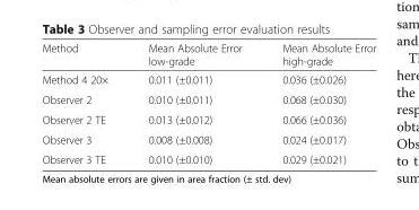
<table><thead><tr><td>Method</td><td>Mean Absolute Error low-grade</td><td>Mean Absolute Error high-grade</td></tr></thead><tbody><tr><td>Method 4 20×</td><td>0.011 (±0.011)</td><td>0.036 (±0.026)</td></tr><tr><td>Observer 2</td><td>0.010 (±0.011)</td><td>0.068 (±0.030)</td></tr><tr><td>Observer 2 TE</td><td>0.013 (±0.012)</td><td>0.066 (±0.036)</td></tr><tr><td>Observer 3</td><td>0.008 (±0.008)</td><td>0.024 (±0.017)</td></tr><tr><td>Observer 3 TE</td><td>0.010 (±0.010)</td><td>0.029 (±0.021)</td></tr></tbody></table>